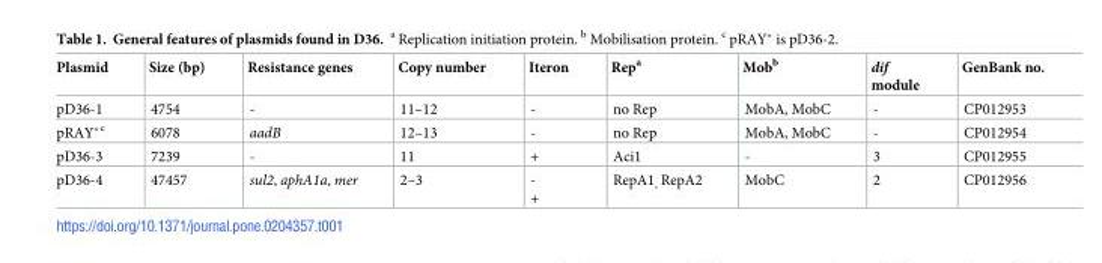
<table><thead><tr><td>Plasmid</td><td>Size (bp)</td><td>Resistance genes</td><td>Copy number</td><td>Iteron</td><td>Rep<sup>a</sup></td><td>Mob<sup>b</sup></td><td>dif module</td><td>GenBank no.</td></tr></thead><tbody><tr><td>pD36-1</td><td>4754</td><td>-</td><td>11–12</td><td>-</td><td>no Rep</td><td>MobA, MobC</td><td>-</td><td>CP012953</td></tr><tr><td>pRAY*<sup>c</sup></td><td>6078</td><td>aadB</td><td>12–13</td><td>-</td><td>no Rep</td><td>MobA, MobC</td><td>-</td><td>CP012954</td></tr><tr><td>pD36-3</td><td>7239</td><td>-</td><td>11</td><td>+</td><td>Aci1</td><td>-</td><td>3</td><td>CP012955</td></tr><tr><td>pD36-4</td><td>47457</td><td>sul2, aphA1a, mer</td><td>2–3</td><td>- +</td><td>RepA1<sub>,</sub> RepA2</td><td>MobC</td><td>2</td><td>CP012956</td></tr></tbody></table>